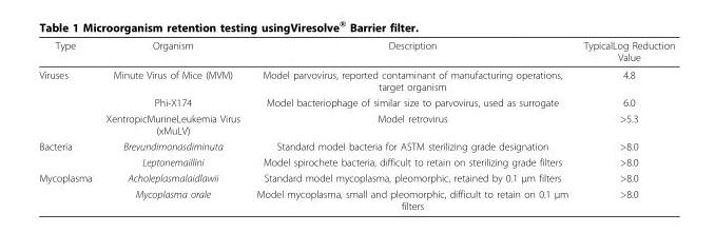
<table><thead><tr><td>Type</td><td>Organism</td><td>Description</td><td>TypicalLog Reduction Value</td></tr></thead><tbody><tr><td rowspan="3">Viruses</td><td>Minute Virus of Mice (MVM)</td><td>Model parvovirus, reported contaminant of manufacturing operations, target organism</td><td>4.8</td></tr><tr><td>Phi-X174</td><td>Model bacteriophage of similar size to parvovirus, used as surrogate</td><td>6.0</td></tr><tr><td>XentropicMurineLeukemia Virus (xMuLV)</td><td>Model retrovirus</td><td>&gt;5.3</td></tr><tr><td rowspan="2">Bacteria</td><td>Brevundimonasdiminuta</td><td>Standard model bacteria for ASTM sterilizing grade designation</td><td>&gt;8.0</td></tr><tr><td>Leptonemaillini</td><td>Model spirochete bacteria, difficult to retain on sterilizing grade filters</td><td>&gt;8.0</td></tr><tr><td rowspan="2">Mycoplasma</td><td>Acholeplasmalaidlawii</td><td>Standard model mycoplasma, pleomorphic, retained by 0.1 µm filters</td><td>&gt;8.0</td></tr><tr><td>Mycoplasma orale</td><td>Model mycoplasma, small and pleomorphic, difficult to retain on 0.1 µm filters</td><td>&gt;8.0</td></tr></tbody></table>